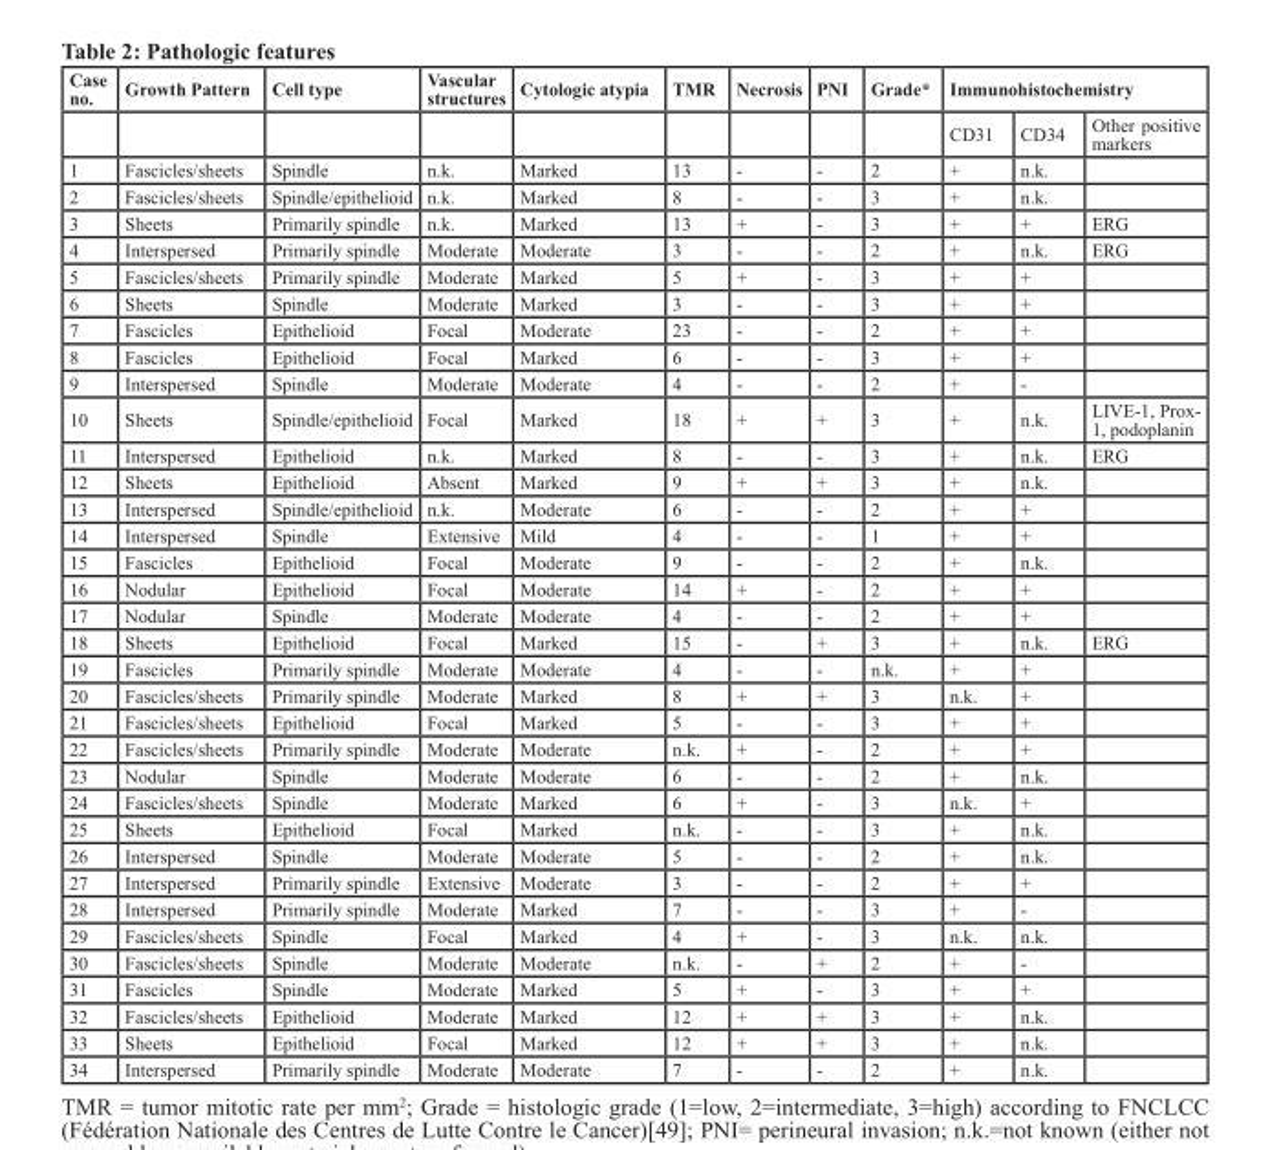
<table><thead><tr><td rowspan="2">Case no.</td><td rowspan="2">Growth Pattern</td><td rowspan="2">Cell type</td><td rowspan="2">Vascular structures</td><td rowspan="2">Cytologic atypia</td><td rowspan="2">TMR</td><td rowspan="2">Necrosis</td><td rowspan="2">PNI</td><td rowspan="2">Grade*</td><td colspan="3">Immunohistochemistry</td></tr><tr><td>CD31</td><td>CD34</td><td>Other positive markers</td></tr></thead><tbody><tr><td>1</td><td>Fascicles/sheets</td><td>Spindle</td><td>n.k.</td><td>Marked</td><td>13</td><td>-</td><td>-</td><td>2</td><td>+</td><td>n.k.</td><td></td></tr><tr><td>2</td><td>Fascicles/sheets</td><td>Spindle/epithelioid</td><td>n.k.</td><td>Marked</td><td>8</td><td>-</td><td>-</td><td>3</td><td>+</td><td>n.k.</td><td></td></tr><tr><td>3</td><td>Sheets</td><td>Primarily spindle</td><td>n.k.</td><td>Marked</td><td>13</td><td>+</td><td>-</td><td>3</td><td>+</td><td>+</td><td>ERG</td></tr><tr><td>4</td><td>Interspersed</td><td>Primarily spindle</td><td>Moderate</td><td>Moderate</td><td>3</td><td>-</td><td>-</td><td>2</td><td>+</td><td>n.k.</td><td>ERG</td></tr><tr><td>5</td><td>Fascicles/sheets</td><td>Primarily spindle</td><td>Moderate</td><td>Marked</td><td>5</td><td>+</td><td>-</td><td>3</td><td>+</td><td>+</td><td></td></tr><tr><td>6</td><td>Sheets</td><td>Spindle</td><td>Moderate</td><td>Marked</td><td>3</td><td>-</td><td>-</td><td>3</td><td>+</td><td>+</td><td></td></tr><tr><td>7</td><td>Fascicles</td><td>Epithelioid</td><td>Focal</td><td>Moderate</td><td>23</td><td>-</td><td>-</td><td>2</td><td>+</td><td>+</td><td></td></tr><tr><td>8</td><td>Fascicles</td><td>Epithelioid</td><td>Focal</td><td>Marked</td><td>6</td><td>-</td><td>-</td><td>3</td><td>+</td><td>+</td><td></td></tr><tr><td>9</td><td>Interspersed</td><td>Spindle</td><td>Moderate</td><td>Moderate</td><td>4</td><td>-</td><td>-</td><td>2</td><td>+</td><td>-</td><td></td></tr><tr><td>10</td><td>Sheets</td><td>Spindle/epithelioid</td><td>Focal</td><td>Marked</td><td>18</td><td>+</td><td>+</td><td>3</td><td>+</td><td>n.k.</td><td>LIVE-1, Prox- 1, podoplanin</td></tr><tr><td>11</td><td>Interspersed</td><td>Epithelioid</td><td>n.k.</td><td>Marked</td><td>8</td><td>-</td><td>-</td><td>3</td><td>+</td><td>n.k.</td><td>ERG</td></tr><tr><td>12</td><td>Sheets</td><td>Epithelioid</td><td>Absent</td><td>Marked</td><td>9</td><td>+</td><td>+</td><td>3</td><td>+</td><td>n.k.</td><td></td></tr><tr><td>13</td><td>Interspersed</td><td>Spindle/epithelioid</td><td>n.k.</td><td>Moderate</td><td>6</td><td>-</td><td>-</td><td>2</td><td>+</td><td>+</td><td></td></tr><tr><td>14</td><td>Interspersed</td><td>Spindle</td><td>Extensive</td><td>Mild</td><td>4</td><td>-</td><td>-</td><td>1</td><td>+</td><td>+</td><td></td></tr><tr><td>15</td><td>Fascicles</td><td>Epithelioid</td><td>Focal</td><td>Moderate</td><td>9</td><td>-</td><td>-</td><td>2</td><td>+</td><td>n.k.</td><td></td></tr><tr><td>16</td><td>Nodular</td><td>Epithelioid</td><td>Focal</td><td>Moderate</td><td>14</td><td>+</td><td>-</td><td>2</td><td>+</td><td>+</td><td></td></tr><tr><td>17</td><td>Nodular</td><td>Spindle</td><td>Moderate</td><td>Moderate</td><td>4</td><td>-</td><td>-</td><td>2</td><td>+</td><td>+</td><td></td></tr><tr><td>18</td><td>Sheets</td><td>Epithelioid</td><td>Focal</td><td>Marked</td><td>15</td><td>-</td><td>+</td><td>3</td><td>+</td><td>n.k.</td><td>ERG</td></tr><tr><td>19</td><td>Fascicles</td><td>Primarily spindle</td><td>Moderate</td><td>Moderate</td><td>4</td><td>-</td><td>-</td><td>n.k.</td><td>+</td><td>+</td><td></td></tr><tr><td>20</td><td>Fascicles/sheets</td><td>Primarily spindle</td><td>Moderate</td><td>Marked</td><td>8</td><td>+</td><td>+</td><td>3</td><td>n.k.</td><td>+</td><td></td></tr><tr><td>21</td><td>Fascicles/sheets</td><td>Epithelioid</td><td>Focal</td><td>Marked</td><td>5</td><td>-</td><td>-</td><td>3</td><td>+</td><td>+</td><td></td></tr><tr><td>22</td><td>Fascicles/sheets</td><td>Primarily spindle</td><td>Moderate</td><td>Moderate</td><td>n.k.</td><td>+</td><td>-</td><td>2</td><td>+</td><td>+</td><td></td></tr><tr><td>23</td><td>Nodular</td><td>Spindle</td><td>Moderate</td><td>Moderate</td><td>6</td><td>-</td><td>-</td><td>2</td><td>+</td><td>n.k.</td><td></td></tr><tr><td>24</td><td>Fascicles/sheets</td><td>Spindle</td><td>Moderate</td><td>Marked</td><td>6</td><td>+</td><td>-</td><td>3</td><td>n.k.</td><td>+</td><td></td></tr><tr><td>25</td><td>Sheets</td><td>Epithelioid</td><td>Focal</td><td>Marked</td><td>n.k.</td><td>-</td><td>-</td><td>3</td><td>+</td><td>n.k.</td><td></td></tr><tr><td>26</td><td>Interspersed</td><td>Spindle</td><td>Moderate</td><td>Moderate</td><td>5</td><td>-</td><td>-</td><td>2</td><td>+</td><td>n.k.</td><td></td></tr><tr><td>27</td><td>Interspersed</td><td>Primarily spindle</td><td>Extensive</td><td>Moderate</td><td>3</td><td>-</td><td>-</td><td>2</td><td>+</td><td>+</td><td></td></tr><tr><td>28</td><td>Interspersed</td><td>Primarily spindle</td><td>Moderate</td><td>Marked</td><td>7</td><td>-</td><td>-</td><td>3</td><td>+</td><td>-</td><td></td></tr><tr><td>29</td><td>Fascicles/sheets</td><td>Spindle</td><td>Focal</td><td>Marked</td><td>4</td><td>+</td><td>-</td><td>3</td><td>n.k.</td><td>n.k.</td><td></td></tr><tr><td>30</td><td>Fascicles/sheets</td><td>Spindle</td><td>Moderate</td><td>Moderate</td><td>n.k.</td><td>-</td><td>+</td><td>2</td><td>+</td><td>-</td><td></td></tr><tr><td>31</td><td>Fascicles</td><td>Spindle</td><td>Moderate</td><td>Marked</td><td>5</td><td>+</td><td>-</td><td>3</td><td>+</td><td>+</td><td></td></tr><tr><td>32</td><td>Fascicles/sheets</td><td>Epithelioid</td><td>Moderate</td><td>Marked</td><td>12</td><td>+</td><td>+</td><td>3</td><td>+</td><td>n.k.</td><td></td></tr><tr><td>33</td><td>Sheets</td><td>Epithelioid</td><td>Focal</td><td>Marked</td><td>12</td><td>+</td><td>+</td><td>3</td><td>+</td><td>n.k.</td><td></td></tr><tr><td>34</td><td>Interspersed</td><td>Primarily spindle</td><td>Moderate</td><td>Moderate</td><td>7</td><td>-</td><td>-</td><td>2</td><td>+</td><td>n.k.</td><td></td></tr></tbody></table>